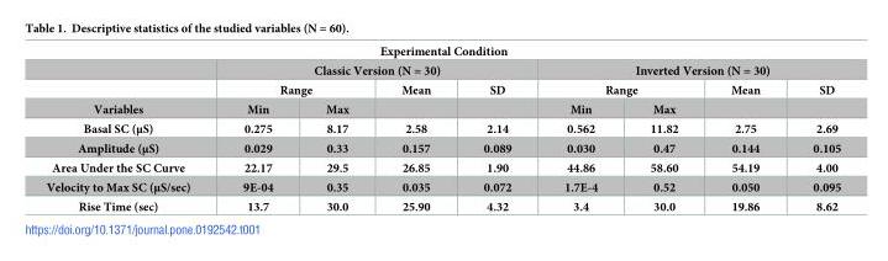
<table><thead><tr><td colspan="9">Experimental Condition</td></tr><tr><td rowspan="3">Variables</td><td colspan="4">Classic Version (N = 30)</td><td colspan="4">Inverted Version (N = 30)</td></tr><tr><td colspan="2">Range</td><td rowspan="2">Mean</td><td rowspan="2">SD</td><td colspan="2">Range</td><td rowspan="2">Mean</td><td rowspan="2">SD</td></tr><tr><td>Min</td><td>Max</td><td>Min</td><td>Max</td></tr></thead><tbody><tr><td>Basal SC (μS)</td><td>0.275</td><td>8.17</td><td>2.58</td><td>2.14</td><td>0.562</td><td>11.82</td><td>2.75</td><td>2.69</td></tr><tr><td>Amplitude (μS)</td><td>0.029</td><td>0.33</td><td>0.157</td><td>0.089</td><td>0.030</td><td>0.47</td><td>0.144</td><td>0.105</td></tr><tr><td>Area Under the SC Curve</td><td>22.17</td><td>29.5</td><td>26.85</td><td>1.90</td><td>44.86</td><td>58.60</td><td>54.19</td><td>4.00</td></tr><tr><td>Velocity to Max SC (μS/sec)</td><td>9E-04</td><td>0.35</td><td>0.035</td><td>0.072</td><td>1.7E-4</td><td>0.52</td><td>0.050</td><td>0.095</td></tr><tr><td>Rise Time (sec)</td><td>13.7</td><td>30.0</td><td>25.90</td><td>4.32</td><td>3.4</td><td>30.0</td><td>19.86</td><td>8.62</td></tr></tbody></table>